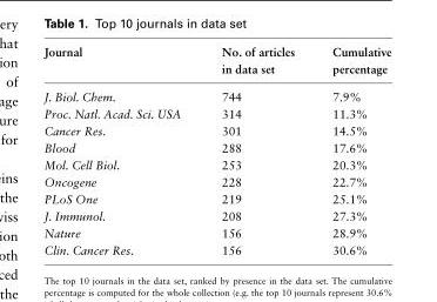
<table><thead><tr><td>Journal</td><td>No. of articles in data set</td><td>Cumulative percentage</td></tr></thead><tbody><tr><td>J. Biol. Chem.</td><td>744</td><td>7.9%</td></tr><tr><td>Proc. Natl. Acad. Sci. USA</td><td>314</td><td>11.3%</td></tr><tr><td>Cancer Res.</td><td>301</td><td>14.5%</td></tr><tr><td>Blood</td><td>288</td><td>17.6%</td></tr><tr><td>Mol. Cell Biol.</td><td>253</td><td>20.3%</td></tr><tr><td>Oncogene</td><td>228</td><td>22.7%</td></tr><tr><td>PLoS One</td><td>219</td><td>25.1%</td></tr><tr><td>J. Immunol.</td><td>208</td><td>27.3%</td></tr><tr><td>Nature</td><td>156</td><td>28.9%</td></tr><tr><td>Clin. Cancer Res.</td><td>156</td><td>30.6%</td></tr></tbody></table>